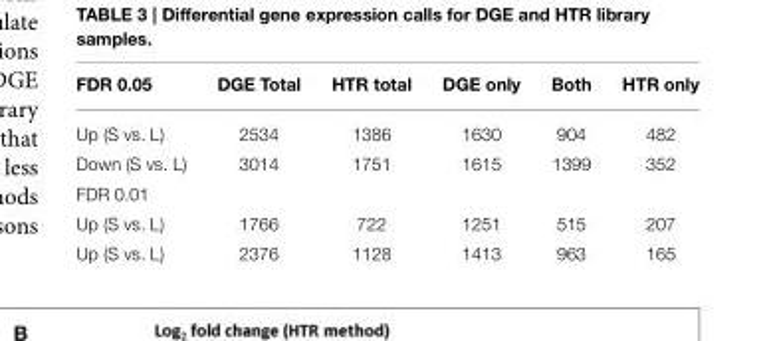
<table><thead><tr><td>FDR 0.05</td><td>DGE Total</td><td>HTR total</td><td>DGE only</td><td>Both</td><td>HTR only</td></tr></thead><tbody><tr><td>Up (S vs. L)</td><td>2534</td><td>1386</td><td>1630</td><td>904</td><td>482</td></tr><tr><td>Down (S vs. L)</td><td>3014</td><td>1751</td><td>1615</td><td>1399</td><td>352</td></tr><tr><td colspan="6">FDR 0.01</td></tr><tr><td>Up (S vs. L)</td><td>1766</td><td>722</td><td>1251</td><td>515</td><td>207</td></tr><tr><td>Up (S vs. L)</td><td>2376</td><td>1128</td><td>1413</td><td>963</td><td>165</td></tr></tbody></table>